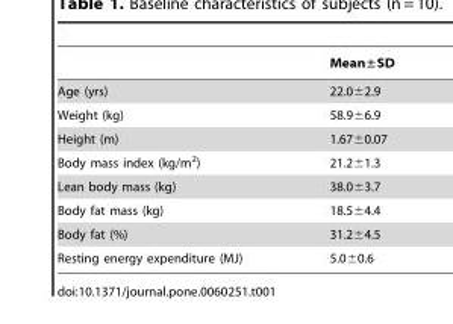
<table><thead><tr><td></td><td>Mean±SD</td></tr></thead><tbody><tr><td>Age (yrs)</td><td>22.0±2.9</td></tr><tr><td>Weight (kg)</td><td>58.9±6.9</td></tr><tr><td>Height (m)</td><td>1.67±0.07</td></tr><tr><td>Body mass index (kg/m<sup>2</sup>)</td><td>21.2±1.3</td></tr><tr><td>Lean body mass (kg)</td><td>38.0±3.7</td></tr><tr><td>Body fat mass (kg)</td><td>18.5±4.4</td></tr><tr><td>Body fat (%)</td><td>31.2±4.5</td></tr><tr><td>Resting energy expenditure (MJ)</td><td>5.0±0.6</td></tr></tbody></table>